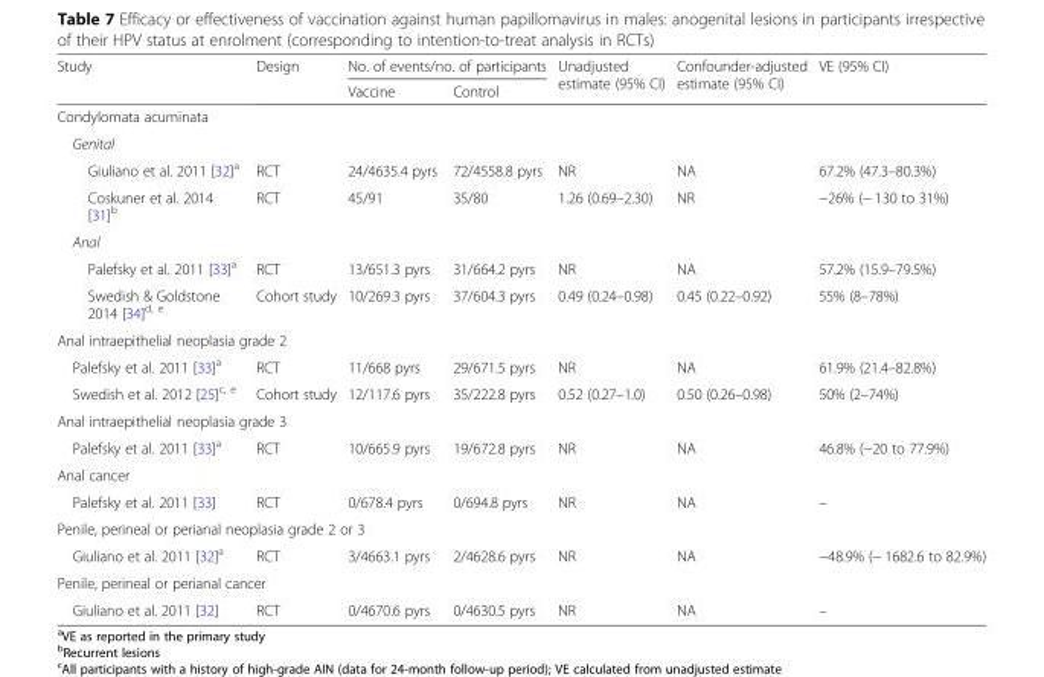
<table><thead><tr><td rowspan="2">Study</td><td rowspan="2">Design</td><td colspan="2">No. of events/no. of participants</td><td rowspan="2">Unadjusted estimate (95% CI)</td><td rowspan="2">Confounder-adjusted estimate (95% CI)</td><td rowspan="2">VE (95% CI)</td></tr><tr><td>Vaccine</td><td>Control</td></tr></thead><tbody><tr><td colspan="7">Condylomata acuminata</td></tr><tr><td colspan="7">Genital</td></tr><tr><td>Giuliano et al. 2011 [32]<sup>a</sup></td><td>RCT</td><td>24/4635.4 pyrs</td><td>72/4558.8 pyrs</td><td>NR</td><td>NA</td><td>67.2% (47.3–80.3%)</td></tr><tr><td>Coskuner et al. 2014 [31]<sup>b</sup></td><td>RCT</td><td>45/91</td><td>35/80</td><td>1.26 (0.69–2.30)</td><td>NR</td><td>−26% (− 130 to 31%)</td></tr><tr><td colspan="7">Anal</td></tr><tr><td>Palefsky et al. 2011 [33]<sup>a</sup></td><td>RCT</td><td>13/651.3 pyrs</td><td>31/664.2 pyrs</td><td>NR</td><td>NA</td><td>57.2% (15.9–79.5%)</td></tr><tr><td>Swedish &amp; Goldstone 2014 [34]<sup>d, e</sup></td><td>Cohort study</td><td>10/269.3 pyrs</td><td>37/604.3 pyrs</td><td>0.49 (0.24–0.98)</td><td>0.45 (0.22–0.92)</td><td>55% (8–78%)</td></tr><tr><td colspan="7">Anal intraepithelial neoplasia grade 2</td></tr><tr><td>Palefsky et al. 2011 [33]<sup>a</sup></td><td>RCT</td><td>11/668 pyrs</td><td>29/671.5 pyrs</td><td>NR</td><td>NA</td><td>61.9% (21.4–82.8%)</td></tr><tr><td>Swedish et al. 2012 [25]<sup>c, e</sup></td><td>Cohort study</td><td>12/117.6 pyrs</td><td>35/222.8 pyrs</td><td>0.52 (0.27–1.0)</td><td>0.50 (0.26–0.98)</td><td>50% (2–74%)</td></tr><tr><td colspan="7">Anal intraepithelial neoplasia grade 3</td></tr><tr><td>Palefsky et al. 2011 [33]<sup>a</sup></td><td>RCT</td><td>10/665.9 pyrs</td><td>19/672.8 pyrs</td><td>NR</td><td>NA</td><td>46.8% (−20 to 77.9%)</td></tr><tr><td colspan="7">Anal cancer</td></tr><tr><td>Palefsky et al. 2011 [33]</td><td>RCT</td><td>0/678.4 pyrs</td><td>0/694.8 pyrs</td><td>NR</td><td>NA</td><td>–</td></tr><tr><td colspan="7">Penile, perineal or perianal neoplasia grade 2 or 3</td></tr><tr><td>Giuliano et al. 2011 [32]<sup>a</sup></td><td>RCT</td><td>3/4663.1 pyrs</td><td>2/4628.6 pyrs</td><td>NR</td><td>NA</td><td>−48.9% (− 1682.6 to 82.9%)</td></tr><tr><td colspan="7">Penile, perineal or perianal cancer</td></tr><tr><td>Giuliano et al. 2011 [32]</td><td>RCT</td><td>0/4670.6 pyrs</td><td>0/4630.5 pyrs</td><td>NR</td><td>NA</td><td>–</td></tr></tbody></table>